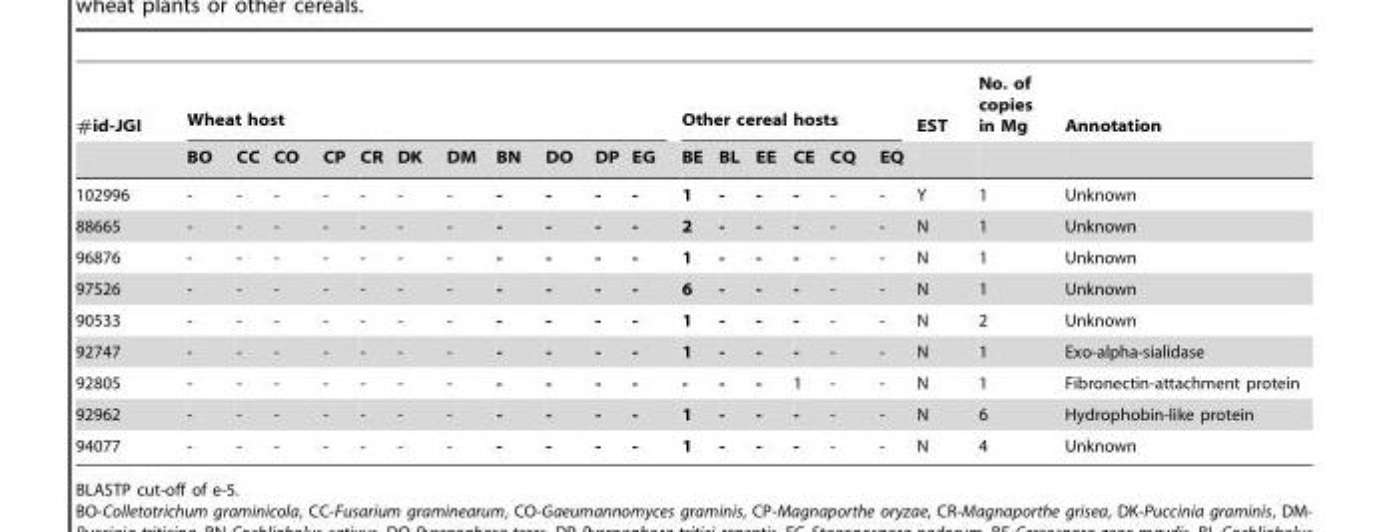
<table><thead><tr><td rowspan="2">#id-JGI</td><td colspan="11">Wheat host</td><td colspan="6">Other cereal hosts</td><td rowspan="2">EST</td><td rowspan="2">No. of copies in Mg</td><td rowspan="2">Annotation</td></tr><tr><td>BO</td><td>CC</td><td>CO</td><td>CP</td><td>CR</td><td>DK</td><td>DM</td><td>BN</td><td>DO</td><td>DP</td><td>EG</td><td>BE</td><td>BL</td><td>EE</td><td>CE</td><td>CQ</td><td>EQ</td></tr></thead><tbody><tr><td>102996</td><td>-</td><td>-</td><td>-</td><td>-</td><td>-</td><td>-</td><td>-</td><td>-</td><td>-</td><td>-</td><td>-</td><td>1</td><td>-</td><td>-</td><td>-</td><td>-</td><td>-</td><td>Y</td><td>1</td><td>Unknown</td></tr><tr><td>88665</td><td>-</td><td>-</td><td>-</td><td>-</td><td>-</td><td>-</td><td>-</td><td>-</td><td>-</td><td>-</td><td>-</td><td>2</td><td>-</td><td>-</td><td>-</td><td>-</td><td>-</td><td>N</td><td>1</td><td>Unknown</td></tr><tr><td>96876</td><td>-</td><td>-</td><td>-</td><td>-</td><td>-</td><td>-</td><td>-</td><td>-</td><td>-</td><td>-</td><td>-</td><td>1</td><td>-</td><td>-</td><td>-</td><td>-</td><td>-</td><td>N</td><td>1</td><td>Unknown</td></tr><tr><td>97526</td><td>-</td><td>-</td><td>-</td><td>-</td><td>-</td><td>-</td><td>-</td><td>-</td><td>-</td><td>-</td><td>-</td><td>6</td><td>-</td><td>-</td><td>-</td><td>-</td><td>-</td><td>N</td><td>1</td><td>Unknown</td></tr><tr><td>90533</td><td>-</td><td>-</td><td>-</td><td>-</td><td>-</td><td>-</td><td>-</td><td>-</td><td>-</td><td>-</td><td>-</td><td>1</td><td>-</td><td>-</td><td>-</td><td>-</td><td>-</td><td>N</td><td>2</td><td>Unknown</td></tr><tr><td>92747</td><td>-</td><td>-</td><td>-</td><td>-</td><td>-</td><td>-</td><td>-</td><td>-</td><td>-</td><td>-</td><td>-</td><td>1</td><td>-</td><td>-</td><td>-</td><td>-</td><td>-</td><td>N</td><td>1</td><td>Exo-alpha-sialidase</td></tr><tr><td>92805</td><td>-</td><td>-</td><td>-</td><td>-</td><td>-</td><td>-</td><td>-</td><td>-</td><td>-</td><td>-</td><td>-</td><td>-</td><td>-</td><td>-</td><td>1</td><td>-</td><td>-</td><td>N</td><td>1</td><td>Fibronectin-attachment protein</td></tr><tr><td>92962</td><td>-</td><td>-</td><td>-</td><td>-</td><td>-</td><td>-</td><td>-</td><td>-</td><td>-</td><td>-</td><td>-</td><td>1</td><td>-</td><td>-</td><td>-</td><td>-</td><td>-</td><td>N</td><td>6</td><td>Hydrophobin-like protein</td></tr><tr><td>94077</td><td>-</td><td>-</td><td>-</td><td>-</td><td>-</td><td>-</td><td>-</td><td>-</td><td>-</td><td>-</td><td>-</td><td>1</td><td>-</td><td>-</td><td>-</td><td>-</td><td>-</td><td>N</td><td>4</td><td>Unknown</td></tr></tbody></table>